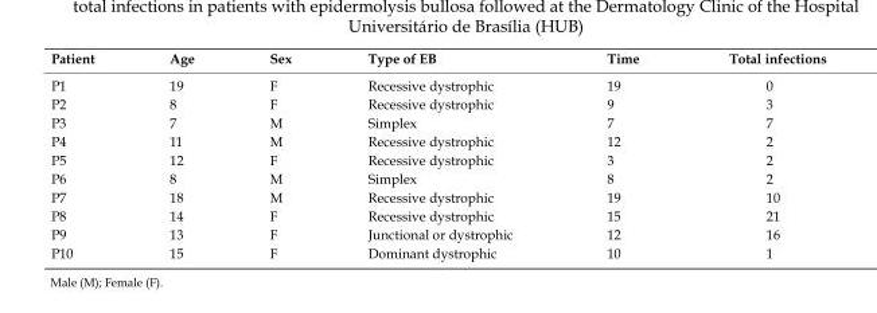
<table><thead><tr><td>Patient</td><td>Age</td><td>Sex</td><td>Type of EB</td><td>Time</td><td>Total infections</td></tr></thead><tbody><tr><td>P1</td><td>19</td><td>F</td><td>Recessive dystrophic</td><td>19</td><td>0</td></tr><tr><td>P2</td><td>8</td><td>F</td><td>Recessive dystrophic</td><td>9</td><td>3</td></tr><tr><td>P3</td><td>7</td><td>M</td><td>Simplex</td><td>7</td><td>7</td></tr><tr><td>P4</td><td>11</td><td>M</td><td>Recessive dystrophic</td><td>12</td><td>2</td></tr><tr><td>P5</td><td>12</td><td>F</td><td>Recessive dystrophic</td><td>3</td><td>2</td></tr><tr><td>P6</td><td>8</td><td>M</td><td>Simplex</td><td>8</td><td>2</td></tr><tr><td>P7</td><td>18</td><td>M</td><td>Recessive dystrophic</td><td>19</td><td>10</td></tr><tr><td>P8</td><td>14</td><td>F</td><td>Recessive dystrophic</td><td>15</td><td>21</td></tr><tr><td>P9</td><td>13</td><td>F</td><td>Junctional or dystrophic</td><td>12</td><td>16</td></tr><tr><td>P10</td><td>15</td><td>F</td><td>Dominant dystrophic</td><td>10</td><td>1</td></tr></tbody></table>